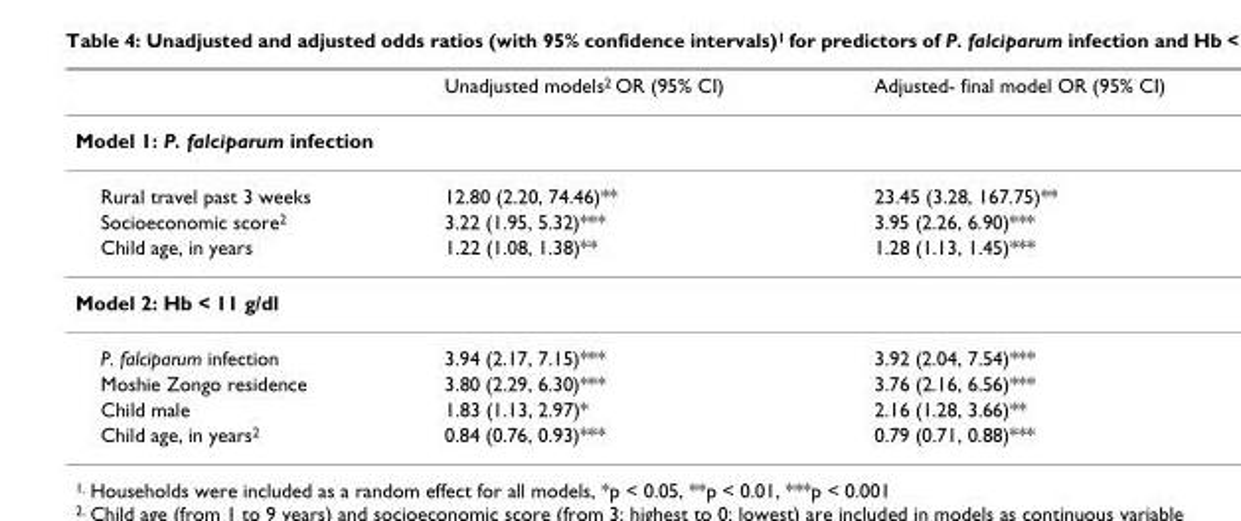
<table><thead><tr><td></td><td>Unadjusted models<sup>2</sup> OR (95% CI)</td><td>Adjusted- final model OR (95% CI)</td></tr></thead><tbody><tr><td colspan="3">Model 1: P. falciparum infection</td></tr><tr><td>Rural travel past 3 weeks</td><td>12.80 (2.20, 74.46)**</td><td>23.45 (3.28, 167.75)**</td></tr><tr><td>Socioeconomic score<sup>2</sup></td><td>3.22 (1.95, 5.32)***</td><td>3.95 (2.26, 6.90)***</td></tr><tr><td>Child age, in years</td><td>1.22 (1.08, 1.38)**</td><td>1.28 (1.13, 1.45)***</td></tr><tr><td colspan="3">Model 2: Hb &lt; 11 g/dl</td></tr><tr><td>P. falciparum infection</td><td>3.94 (2.17, 7.15)***</td><td>3.92 (2.04, 7.54)***</td></tr><tr><td>Moshie Zongo residence</td><td>3.80 (2.29, 6.30)***</td><td>3.76 (2.16, 6.56)***</td></tr><tr><td>Child male</td><td>1.83 (1.13, 2.97)*</td><td>2.16 (1.28, 3.66)**</td></tr><tr><td>Child age, in years<sup>2</sup></td><td>0.84 (0.76, 0.93)***</td><td>0.79 (0.71, 0.88)***</td></tr></tbody></table>